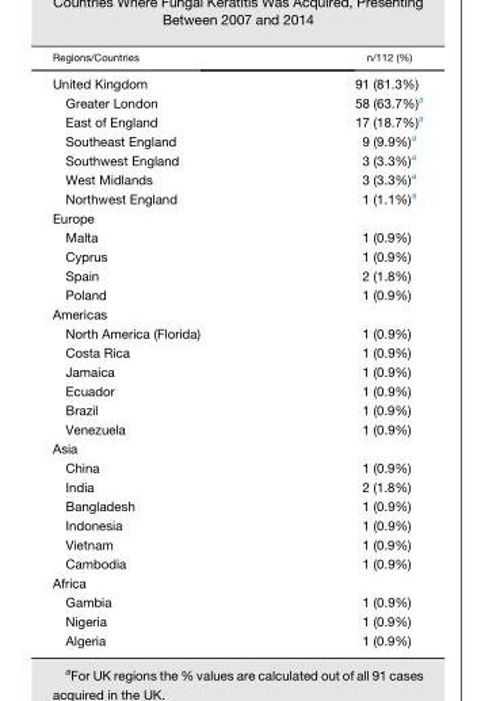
<table><thead><tr><td>Regions/Countries</td><td>n/112 (%)</td></tr></thead><tbody><tr><td>United Kingdom</td><td>91 (81.3%)</td></tr><tr><td>Greater London</td><td>58 (63.7%)<sup>a</sup></td></tr><tr><td>East of England</td><td>17 (18.7%)<sup>a</sup></td></tr><tr><td>Southeast England</td><td>9 (9.9%)<sup>a</sup></td></tr><tr><td>Southwest England</td><td>3 (3.3%)<sup>a</sup></td></tr><tr><td>West Midlands</td><td>3 (3.3%)<sup>a</sup></td></tr><tr><td>Northwest England</td><td>1 (1.1%)<sup>a</sup></td></tr><tr><td colspan="2">Europe</td></tr><tr><td>Malta</td><td>1 (0.9%)</td></tr><tr><td>Cyprus</td><td>1 (0.9%)</td></tr><tr><td>Spain</td><td>2 (1.8%)</td></tr><tr><td>Poland</td><td>1 (0.9%)</td></tr><tr><td colspan="2">Americas</td></tr><tr><td>North America (Florida)</td><td>1 (0.9%)</td></tr><tr><td>Costa Rica</td><td>1 (0.9%)</td></tr><tr><td>Jamaica</td><td>1 (0.9%)</td></tr><tr><td>Ecuador</td><td>1 (0.9%)</td></tr><tr><td>Brazil</td><td>1 (0.9%)</td></tr><tr><td>Venezuela</td><td>1 (0.9%)</td></tr><tr><td colspan="2">Asia</td></tr><tr><td>China</td><td>1 (0.9%)</td></tr><tr><td>India</td><td>2 (1.8%)</td></tr><tr><td>Bangladesh</td><td>1 (0.9%)</td></tr><tr><td>Indonesia</td><td>1 (0.9%)</td></tr><tr><td>Vietnam</td><td>1 (0.9%)</td></tr><tr><td>Cambodia</td><td>1 (0.9%)</td></tr><tr><td colspan="2">Africa</td></tr><tr><td>Gambia</td><td>1 (0.9%)</td></tr><tr><td>Nigeria</td><td>1 (0.9%)</td></tr><tr><td>Algeria</td><td>1 (0.9%)</td></tr></tbody></table>